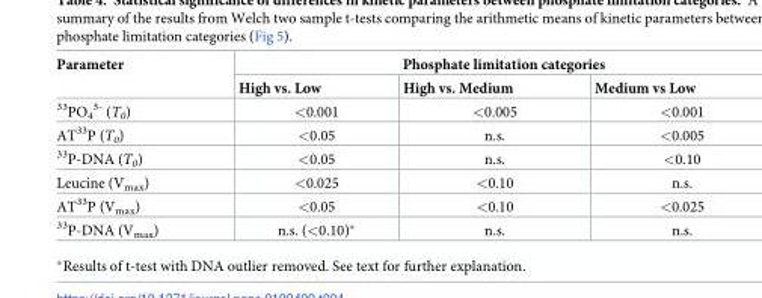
<table><thead><tr><td rowspan="2">Parameter</td><td colspan="3">Phosphate limitation categories</td></tr><tr><td>High vs. Low</td><td>High vs. Medium</td><td>Medium vs Low</td></tr></thead><tbody><tr><td><sup>33</sup>PO<sub>4</sub> <sup>3-</sup> (T<sub>0</sub>)</td><td>&lt;0.001</td><td>&lt;0.005</td><td>&lt;0.001</td></tr><tr><td>AT<sup>33</sup>P (T<sub>0</sub>)</td><td>&lt;0.05</td><td>n.s.</td><td>&lt;0.005</td></tr><tr><td><sup>33</sup>P-DNA (T<sub>0</sub>)</td><td>&lt;0.05</td><td>n.s.</td><td>&lt;0.10</td></tr><tr><td>Leucine (V<sub>max</sub>)</td><td>&lt;0.025</td><td>&lt;0.10</td><td>n.s.</td></tr><tr><td>AT<sup>33</sup>P (V<sub>max</sub>)</td><td>&lt;0.05</td><td>&lt;0.10</td><td>&lt;0.025</td></tr><tr><td><sup>33</sup>P-DNA (V<sub>max</sub>)</td><td>n.s. (&lt;0.10)*</td><td>n.s.</td><td>n.s.</td></tr></tbody></table>